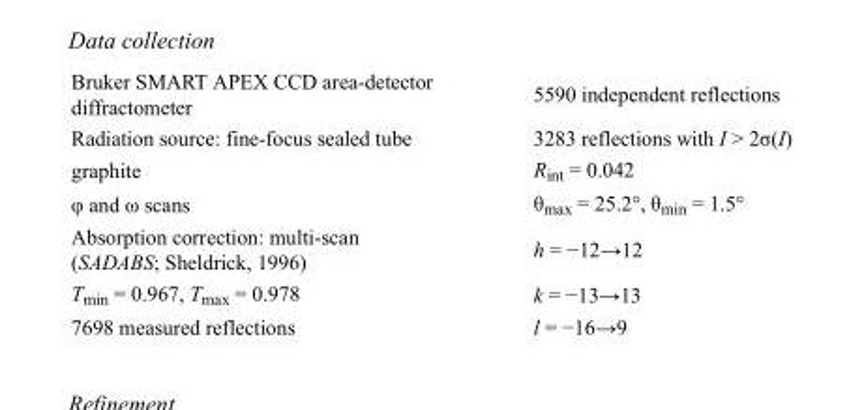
<table><tbody><tr><td>Bruker SMART APEX CCD area-detector diffractometer</td><td>5590 independent reflections</td></tr><tr><td>Radiation source: fine-focus sealed tube</td><td>3283 reflections with I &gt; 2σ(I)</td></tr><tr><td>graphite</td><td>R<sub>int</sub> = 0.042</td></tr><tr><td>φ and ω scans</td><td>θ<sub>max</sub> = 25.2°, θ<sub>min</sub> = 1.5°</td></tr><tr><td>Absorption correction: multi-scan (SADABS; Sheldrick, 1996)</td><td>h = −12→12</td></tr><tr><td>T<sub>min</sub> = 0.967, T<sub>max</sub> = 0.978</td><td>k = −13→13</td></tr><tr><td>7698 measured reflections</td><td>l = −16→9</td></tr></tbody></table>